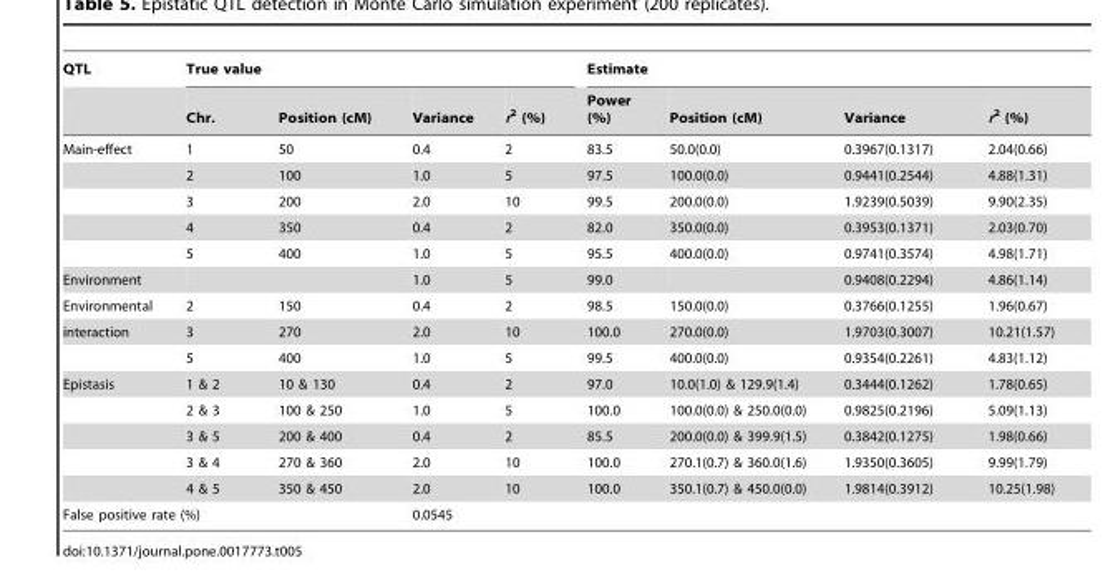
<table><thead><tr><td rowspan="2">QTL</td><td colspan="4">True value</td><td colspan="4">Estimate</td></tr><tr><td>Chr.</td><td>Position (cM)</td><td>Variance</td><td>r<sup>2</sup> (%)</td><td>Power (%)</td><td>Position (cM)</td><td>Variance</td><td>r<sup>2</sup> (%)</td></tr></thead><tbody><tr><td rowspan="5">Main-effect</td><td>1</td><td>50</td><td>0.4</td><td>2</td><td>83.5</td><td>50.0(0.0)</td><td>0.3967(0.1317)</td><td>2.04(0.66)</td></tr><tr><td>2</td><td>100</td><td>1.0</td><td>5</td><td>97.5</td><td>100.0(0.0)</td><td>0.9441(0.2544)</td><td>4.88(1.31)</td></tr><tr><td>3</td><td>200</td><td>2.0</td><td>10</td><td>99.5</td><td>200.0(0.0)</td><td>1.9239(0.5039)</td><td>9.90(2.35)</td></tr><tr><td>4</td><td>350</td><td>0.4</td><td>2</td><td>82.0</td><td>350.0(0.0)</td><td>0.3953(0.1371)</td><td>2.03(0.70)</td></tr><tr><td>5</td><td>400</td><td>1.0</td><td>5</td><td>95.5</td><td>400.0(0.0)</td><td>0.9741(0.3574)</td><td>4.98(1.71)</td></tr><tr><td>Environment</td><td></td><td></td><td>1.0</td><td>5</td><td>99.0</td><td></td><td>0.9408(0.2294)</td><td>4.86(1.14)</td></tr><tr><td>Environmental</td><td>2</td><td>150</td><td>0.4</td><td>2</td><td>98.5</td><td>150.0(0.0)</td><td>0.3766(0.1255)</td><td>1.96(0.67)</td></tr><tr><td rowspan="2">interaction</td><td>3</td><td>270</td><td>2.0</td><td>10</td><td>100.0</td><td>270.0(0.0)</td><td>1.9703(0.3007)</td><td>10.21(1.57)</td></tr><tr><td>5</td><td>400</td><td>1.0</td><td>5</td><td>99.5</td><td>400.0(0.0)</td><td>0.9354(0.2261)</td><td>4.83(1.12)</td></tr><tr><td rowspan="5">Epistasis</td><td>1 &amp; 2</td><td>10 &amp; 130</td><td>0.4</td><td>2</td><td>97.0</td><td>10.0(1.0) &amp; 129.9(1.4)</td><td>0.3444(0.1262)</td><td>1.78(0.65)</td></tr><tr><td>2 &amp; 3</td><td>100 &amp; 250</td><td>1.0</td><td>5</td><td>100.0</td><td>100.0(0.0) &amp; 250.0(0.0)</td><td>0.9825(0.2196)</td><td>5.09(1.13)</td></tr><tr><td>3 &amp; 5</td><td>200 &amp; 400</td><td>0.4</td><td>2</td><td>85.5</td><td>200.0(0.0) &amp; 399.9(1.5)</td><td>0.3842(0.1275)</td><td>1.98(0.66)</td></tr><tr><td>3 &amp; 4</td><td>270 &amp; 360</td><td>2.0</td><td>10</td><td>100.0</td><td>270.1(0.7) &amp; 360.0(1.6)</td><td>1.9350(0.3605)</td><td>9.99(1.79)</td></tr><tr><td>4 &amp; 5</td><td>350 &amp; 450</td><td>2.0</td><td>10</td><td>100.0</td><td>350.1(0.7) &amp; 450.0(0.0)</td><td>1.9814(0.3912)</td><td>10.25(1.98)</td></tr><tr><td colspan="3">False positive rate (%)</td><td colspan="6">0.0545</td></tr></tbody></table>